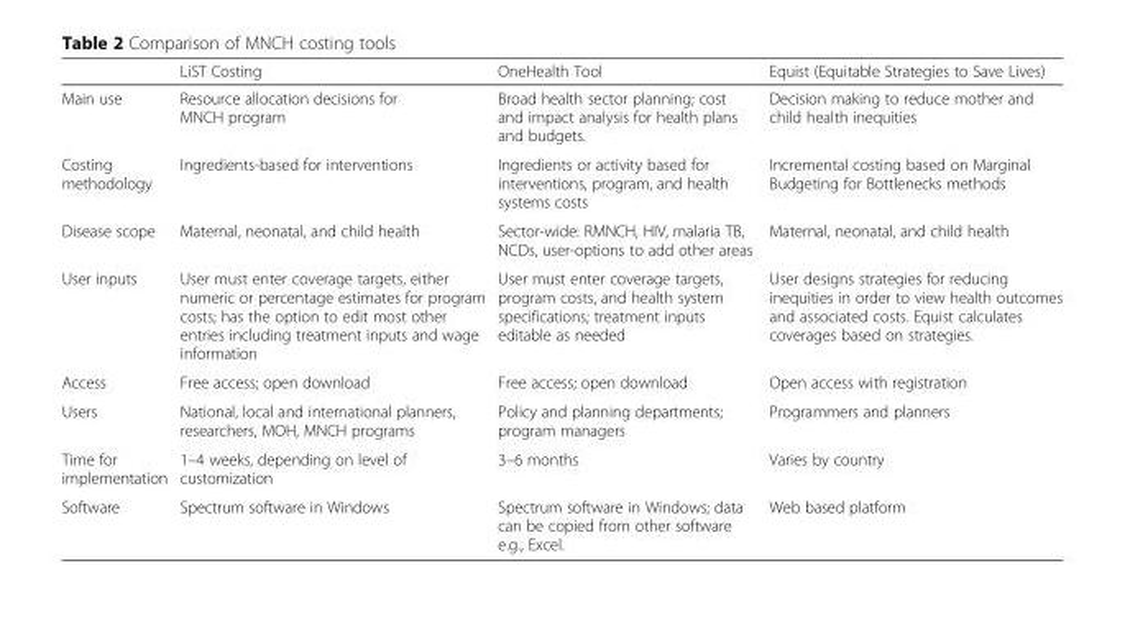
<table><thead><tr><td></td><td>LiST Costing</td><td>OneHealth Tool</td><td>Equist (Equitable Strategies to Save Lives)</td></tr></thead><tbody><tr><td>Main use</td><td>Resource allocation decisions for MNCH program</td><td>Broad health sector planning; cost and impact analysis for health plans and budgets.</td><td>Decision making to reduce mother and child health inequities</td></tr><tr><td>Costing methodology</td><td>Ingredients-based for interventions</td><td>Ingredients or activity based for interventions, program, and health systems costs</td><td>Incremental costing based on Marginal Budgeting for Bottlenecks methods</td></tr><tr><td>Disease scope</td><td>Maternal, neonatal, and child health</td><td>Sector-wide: RMNCH, HIV, malaria TB, NCDs, user-options to add other areas</td><td>Maternal, neonatal, and child health</td></tr><tr><td>User inputs</td><td>User must enter coverage targets, either numeric or percentage estimates for program costs; has the option to edit most other entries including treatment inputs and wage information</td><td>User must enter coverage targets, program costs, and health system specifications; treatment inputs editable as needed</td><td>User designs strategies for reducing inequities in order to view health outcomes and associated costs. Equist calculates coverages based on strategies.</td></tr><tr><td>Access</td><td>Free access; open download</td><td>Free access; open download</td><td>Open access with registration</td></tr><tr><td>Users</td><td>National, local and international planners, researchers, MOH, MNCH programs</td><td>Policy and planning departments; program managers</td><td>Programmers and planners</td></tr><tr><td>Time for implementation</td><td>1–4 weeks, depending on level of customization</td><td>3–6 months</td><td>Varies by country</td></tr><tr><td>Software</td><td>Spectrum software in Windows</td><td>Spectrum software in Windows; data can be copied from other software e.g., Excel.</td><td>Web based platform</td></tr></tbody></table>